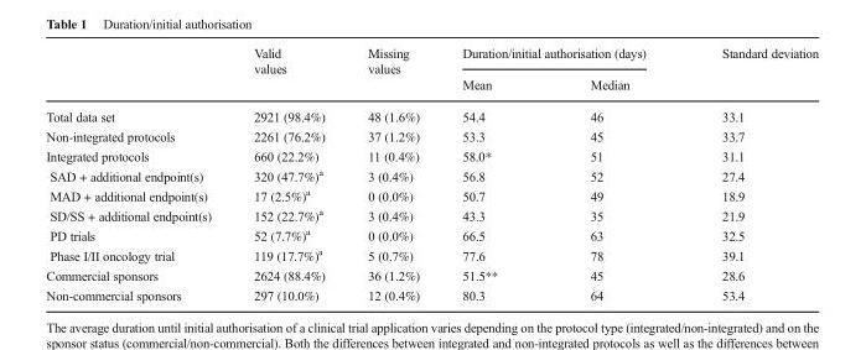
<table><thead><tr><td rowspan="2"></td><td rowspan="2">Valid values</td><td rowspan="2">Missing values</td><td colspan="2">Duration/initial authorisation (days)</td><td rowspan="2">Standard deviation</td></tr><tr><td>Mean</td><td>Median</td></tr></thead><tbody><tr><td>Total data set</td><td>2921 (98.4%)</td><td>48 (1.6%)</td><td>54.4</td><td>46</td><td>33.1</td></tr><tr><td>Non-integrated protocols</td><td>2261 (76.2%)</td><td>37 (1.2%)</td><td>53.3</td><td>45</td><td>33.7</td></tr><tr><td>Integrated protocols</td><td>660 (22.2%)</td><td>11 (0.4%)</td><td>58.0*</td><td>51</td><td>31.1</td></tr><tr><td>SAD + additional endpoint(s)</td><td>320 (47.7%)<sup>a</sup></td><td>3 (0.4%)</td><td>56.8</td><td>52</td><td>27.4</td></tr><tr><td>MAD + additional endpoint(s)</td><td>17 (2.5%)<sup>a</sup></td><td>0 (0.0%)</td><td>50.7</td><td>49</td><td>18.9</td></tr><tr><td>SD/SS + additional endpoint(s)</td><td>152 (22.7%)<sup>a</sup></td><td>3 (0.4%)</td><td>43.3</td><td>35</td><td>21.9</td></tr><tr><td>PD trials</td><td>52 (7.7%)<sup>a</sup></td><td>0 (0.0%)</td><td>66.5</td><td>63</td><td>32.5</td></tr><tr><td>Phase I/II oncology trial</td><td>119 (17.7%)<sup>a</sup></td><td>5 (0.7%)</td><td>77.6</td><td>78</td><td>39.1</td></tr><tr><td>Commercial sponsors</td><td>2624 (88.4%)</td><td>36 (1.2%)</td><td>51.5**</td><td>45</td><td>28.6</td></tr><tr><td>Non-commercial sponsors</td><td>297 (10.0%)</td><td>12 (0.4%)</td><td>80.3</td><td>64</td><td>53.4</td></tr></tbody></table>